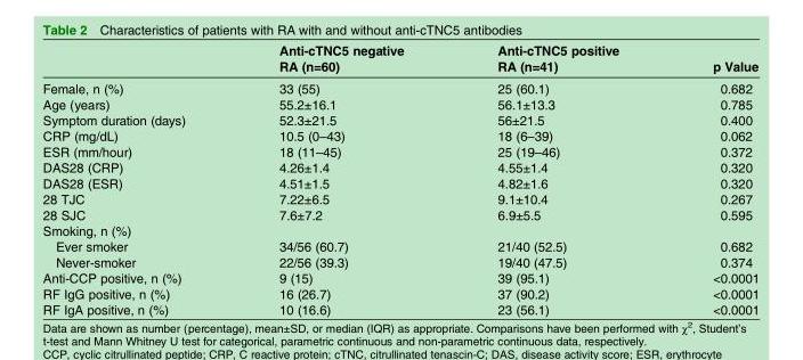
<table><thead><tr><td></td><td>Anti-cTNC5 negative RA (n=60)</td><td>Anti-cTNC5 positive RA (n=41)</td><td>p Value</td></tr></thead><tbody><tr><td>Female, n (%)</td><td>33 (55)</td><td>25 (60.1)</td><td>0.682</td></tr><tr><td>Age (years)</td><td>55.2±16.1</td><td>56.1±13.3</td><td>0.785</td></tr><tr><td>Symptom duration (days)</td><td>52.3±21.5</td><td>56±21.5</td><td>0.400</td></tr><tr><td>CRP (mg/dL)</td><td>10.5 (0–43)</td><td>18 (6–39)</td><td>0.062</td></tr><tr><td>ESR (mm/hour)</td><td>18 (11–45)</td><td>25 (19–46)</td><td>0.372</td></tr><tr><td>DAS28 (CRP)</td><td>4.26±1.4</td><td>4.55±1.4</td><td>0.320</td></tr><tr><td>DAS28 (ESR)</td><td>4.51±1.5</td><td>4.82±1.6</td><td>0.320</td></tr><tr><td>28 TJC</td><td>7.22±6.5</td><td>9.1±10.4</td><td>0.267</td></tr><tr><td>28 SJC</td><td>7.6±7.2</td><td>6.9±5.5</td><td>0.595</td></tr><tr><td colspan="4">Smoking, n (%)</td></tr><tr><td>Ever smoker</td><td>34/56 (60.7)</td><td>21/40 (52.5)</td><td>0.682</td></tr><tr><td>Never-smoker</td><td>22/56 (39.3)</td><td>19/40 (47.5)</td><td>0.374</td></tr><tr><td>Anti-CCP positive, n (%)</td><td>9 (15)</td><td>39 (95.1)</td><td>&lt;0.0001</td></tr><tr><td>RF IgG positive, n (%)</td><td>16 (26.7)</td><td>37 (90.2)</td><td>&lt;0.0001</td></tr><tr><td>RF IgA positive, n (%)</td><td>10 (16.6)</td><td>23 (56.1)</td><td>&lt;0.0001</td></tr></tbody></table>